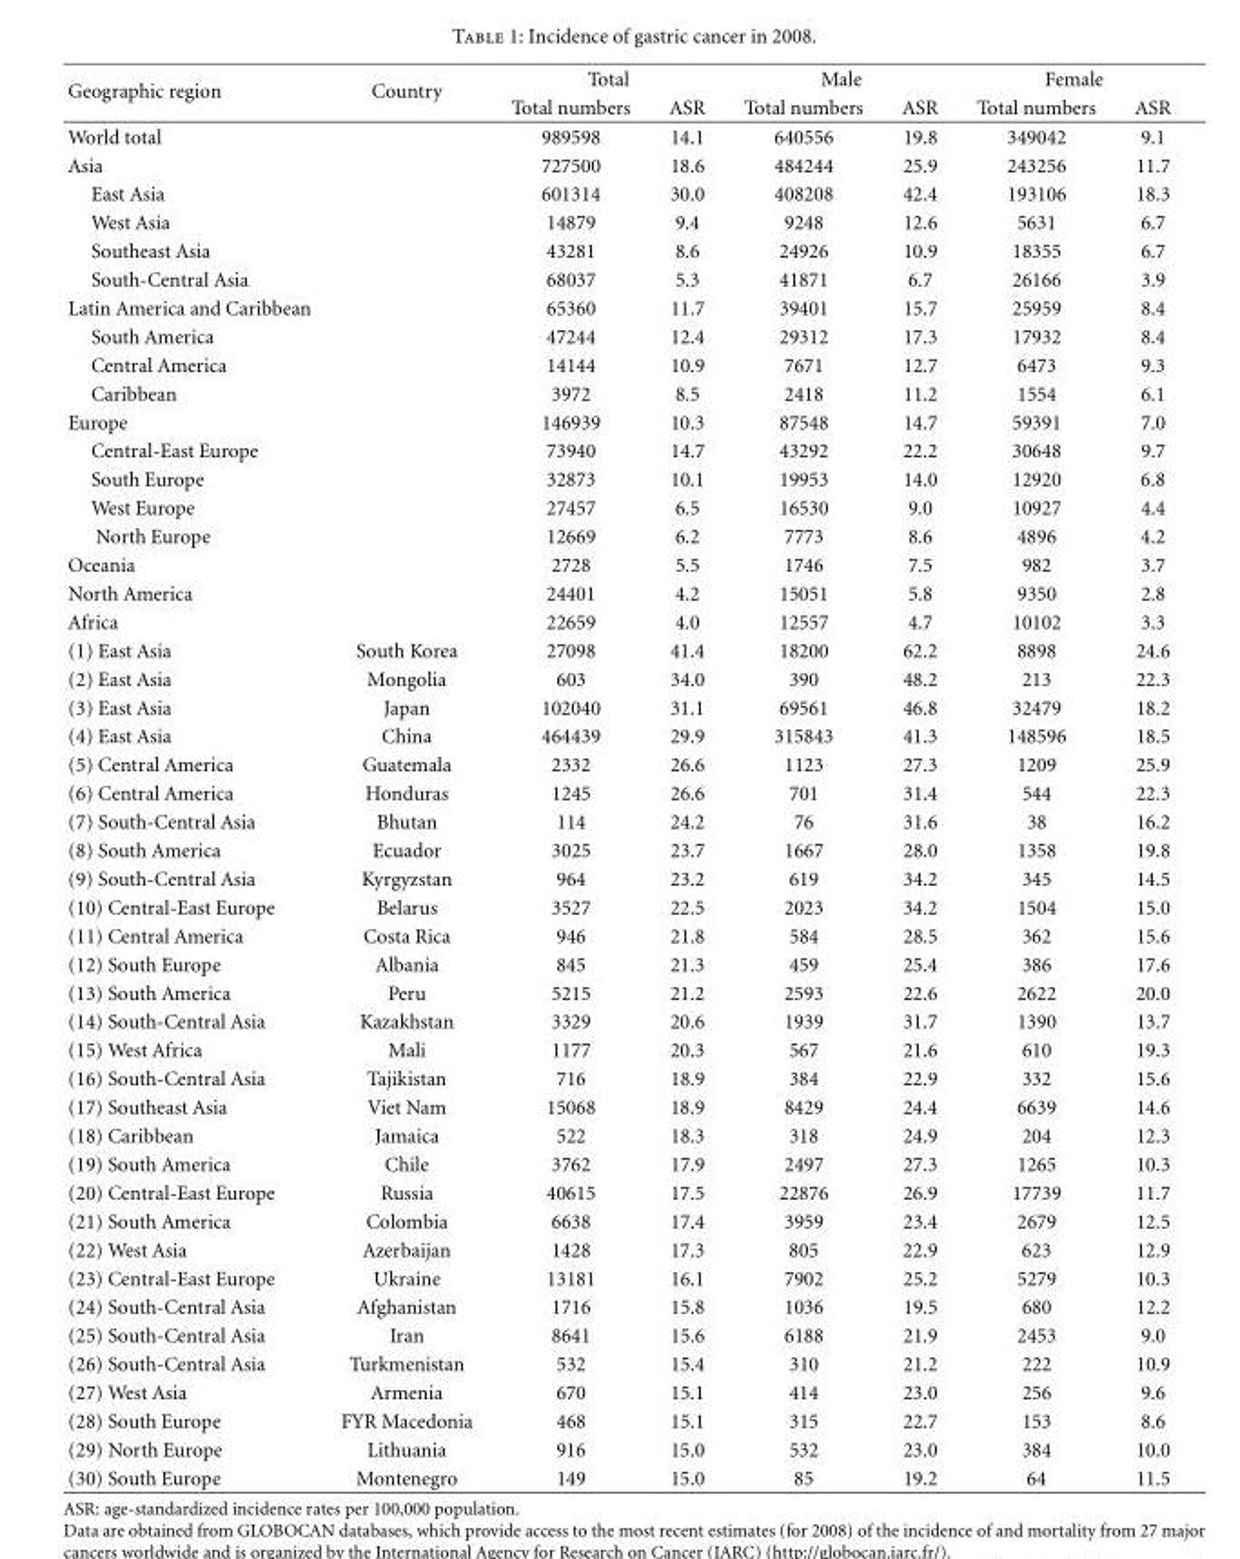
<table><thead><tr><td rowspan="2">Geographic region</td><td rowspan="2">Country</td><td colspan="2">Total</td><td colspan="2">Male</td><td colspan="2">Female</td></tr><tr><td>Total numbers</td><td>ASR</td><td>Total numbers</td><td>ASR</td><td>Total numbers</td><td>ASR</td></tr></thead><tbody><tr><td>World total</td><td></td><td>989598</td><td>14.1</td><td>640556</td><td>19.8</td><td>349042</td><td>9.1</td></tr><tr><td>Asia</td><td></td><td>727500</td><td>18.6</td><td>484244</td><td>25.9</td><td>243256</td><td>11.7</td></tr><tr><td>East Asia</td><td></td><td>601314</td><td>30.0</td><td>408208</td><td>42.4</td><td>193106</td><td>18.3</td></tr><tr><td>West Asia</td><td></td><td>14879</td><td>9.4</td><td>9248</td><td>12.6</td><td>5631</td><td>6.7</td></tr><tr><td>Southeast Asia</td><td></td><td>43281</td><td>8.6</td><td>24926</td><td>10.9</td><td>18355</td><td>6.7</td></tr><tr><td>South-Central Asia</td><td></td><td>68037</td><td>5.3</td><td>41871</td><td>6.7</td><td>26166</td><td>3.9</td></tr><tr><td>Latin America and Caribbean</td><td></td><td>65360</td><td>11.7</td><td>39401</td><td>15.7</td><td>25959</td><td>8.4</td></tr><tr><td>South America</td><td></td><td>47244</td><td>12.4</td><td>29312</td><td>17.3</td><td>17932</td><td>8.4</td></tr><tr><td>Central America</td><td></td><td>14144</td><td>10.9</td><td>7671</td><td>12.7</td><td>6473</td><td>9.3</td></tr><tr><td>Caribbean</td><td></td><td>3972</td><td>8.5</td><td>2418</td><td>11.2</td><td>1554</td><td>6.1</td></tr><tr><td>Europe</td><td></td><td>146939</td><td>10.3</td><td>87548</td><td>14.7</td><td>59391</td><td>7.0</td></tr><tr><td>Central-East Europe</td><td></td><td>73940</td><td>14.7</td><td>43292</td><td>22.2</td><td>30648</td><td>9.7</td></tr><tr><td>South Europe</td><td></td><td>32873</td><td>10.1</td><td>19953</td><td>14.0</td><td>12920</td><td>6.8</td></tr><tr><td>West Europe</td><td></td><td>27457</td><td>6.5</td><td>16530</td><td>9.0</td><td>10927</td><td>4.4</td></tr><tr><td>North Europe</td><td></td><td>12669</td><td>6.2</td><td>7773</td><td>8.6</td><td>4896</td><td>4.2</td></tr><tr><td>Oceania</td><td></td><td>2728</td><td>5.5</td><td>1746</td><td>7.5</td><td>982</td><td>3.7</td></tr><tr><td>North America</td><td></td><td>24401</td><td>4.2</td><td>15051</td><td>5.8</td><td>9350</td><td>2.8</td></tr><tr><td>Africa</td><td></td><td>22659</td><td>4.0</td><td>12557</td><td>4.7</td><td>10102</td><td>3.3</td></tr><tr><td>(1) East Asia</td><td>South Korea</td><td>27098</td><td>41.4</td><td>18200</td><td>62.2</td><td>8898</td><td>24.6</td></tr><tr><td>(2) East Asia</td><td>Mongolia</td><td>603</td><td>34.0</td><td>390</td><td>48.2</td><td>213</td><td>22.3</td></tr><tr><td>(3) East Asia</td><td>Japan</td><td>102040</td><td>31.1</td><td>69561</td><td>46.8</td><td>32479</td><td>18.2</td></tr><tr><td>(4) East Asia</td><td>China</td><td>464439</td><td>29.9</td><td>315843</td><td>41.3</td><td>148596</td><td>18.5</td></tr><tr><td>(5) Central America</td><td>Guatemala</td><td>2332</td><td>26.6</td><td>1123</td><td>27.3</td><td>1209</td><td>25.9</td></tr><tr><td>(6) Central America</td><td>Honduras</td><td>1245</td><td>26.6</td><td>701</td><td>31.4</td><td>544</td><td>22.3</td></tr><tr><td>(7) South-Central Asia</td><td>Bhutan</td><td>114</td><td>24.2</td><td>76</td><td>31.6</td><td>38</td><td>16.2</td></tr><tr><td>(8) South America</td><td>Ecuador</td><td>3025</td><td>23.7</td><td>1667</td><td>28.0</td><td>1358</td><td>19.8</td></tr><tr><td>(9) South-Central Asia</td><td>Kyrgyzstan</td><td>964</td><td>23.2</td><td>619</td><td>34.2</td><td>345</td><td>14.5</td></tr><tr><td>(10) Central-East Europe</td><td>Belarus</td><td>3527</td><td>22.5</td><td>2023</td><td>34.2</td><td>1504</td><td>15.0</td></tr><tr><td>(11) Central America</td><td>Costa Rica</td><td>946</td><td>21.8</td><td>584</td><td>28.5</td><td>362</td><td>15.6</td></tr><tr><td>(12) South Europe</td><td>Albania</td><td>845</td><td>21.3</td><td>459</td><td>25.4</td><td>386</td><td>17.6</td></tr><tr><td>(13) South America</td><td>Peru</td><td>5215</td><td>21.2</td><td>2593</td><td>22.6</td><td>2622</td><td>20.0</td></tr><tr><td>(14) South-Central Asia</td><td>Kazakhstan</td><td>3329</td><td>20.6</td><td>1939</td><td>31.7</td><td>1390</td><td>13.7</td></tr><tr><td>(15) West Africa</td><td>Mali</td><td>1177</td><td>20.3</td><td>567</td><td>21.6</td><td>610</td><td>19.3</td></tr><tr><td>(16) South-Central Asia</td><td>Tajikistan</td><td>716</td><td>18.9</td><td>384</td><td>22.9</td><td>332</td><td>15.6</td></tr><tr><td>(17) Southeast Asia</td><td>Viet Nam</td><td>15068</td><td>18.9</td><td>8429</td><td>24.4</td><td>6639</td><td>14.6</td></tr><tr><td>(18) Caribbean</td><td>Jamaica</td><td>522</td><td>18.3</td><td>318</td><td>24.9</td><td>204</td><td>12.3</td></tr><tr><td>(19) South America</td><td>Chile</td><td>3762</td><td>17.9</td><td>2497</td><td>27.3</td><td>1265</td><td>10.3</td></tr><tr><td>(20) Central-East Europe</td><td>Russia</td><td>40615</td><td>17.5</td><td>22876</td><td>26.9</td><td>17739</td><td>11.7</td></tr><tr><td>(21) South America</td><td>Colombia</td><td>6638</td><td>17.4</td><td>3959</td><td>23.4</td><td>2679</td><td>12.5</td></tr><tr><td>(22) West Asia</td><td>Azerbaijan</td><td>1428</td><td>17.3</td><td>805</td><td>22.9</td><td>623</td><td>12.9</td></tr><tr><td>(23) Central-East Europe</td><td>Ukraine</td><td>13181</td><td>16.1</td><td>7902</td><td>25.2</td><td>5279</td><td>10.3</td></tr><tr><td>(24) South-Central Asia</td><td>Afghanistan</td><td>1716</td><td>15.8</td><td>1036</td><td>19.5</td><td>680</td><td>12.2</td></tr><tr><td>(25) South-Central Asia</td><td>Iran</td><td>8641</td><td>15.6</td><td>6188</td><td>21.9</td><td>2453</td><td>9.0</td></tr><tr><td>(26) South-Central Asia</td><td>Turkmenistan</td><td>532</td><td>15.4</td><td>310</td><td>21.2</td><td>222</td><td>10.9</td></tr><tr><td>(27) West Asia</td><td>Armenia</td><td>670</td><td>15.1</td><td>414</td><td>23.0</td><td>256</td><td>9.6</td></tr><tr><td>(28) South Europe</td><td>FYR Macedonia</td><td>468</td><td>15.1</td><td>315</td><td>22.7</td><td>153</td><td>8.6</td></tr><tr><td>(29) North Europe</td><td>Lithuania</td><td>916</td><td>15.0</td><td>532</td><td>23.0</td><td>384</td><td>10.0</td></tr><tr><td>(30) South Europe</td><td>Montenegro</td><td>149</td><td>15.0</td><td>85</td><td>19.2</td><td>64</td><td>11.5</td></tr></tbody></table>